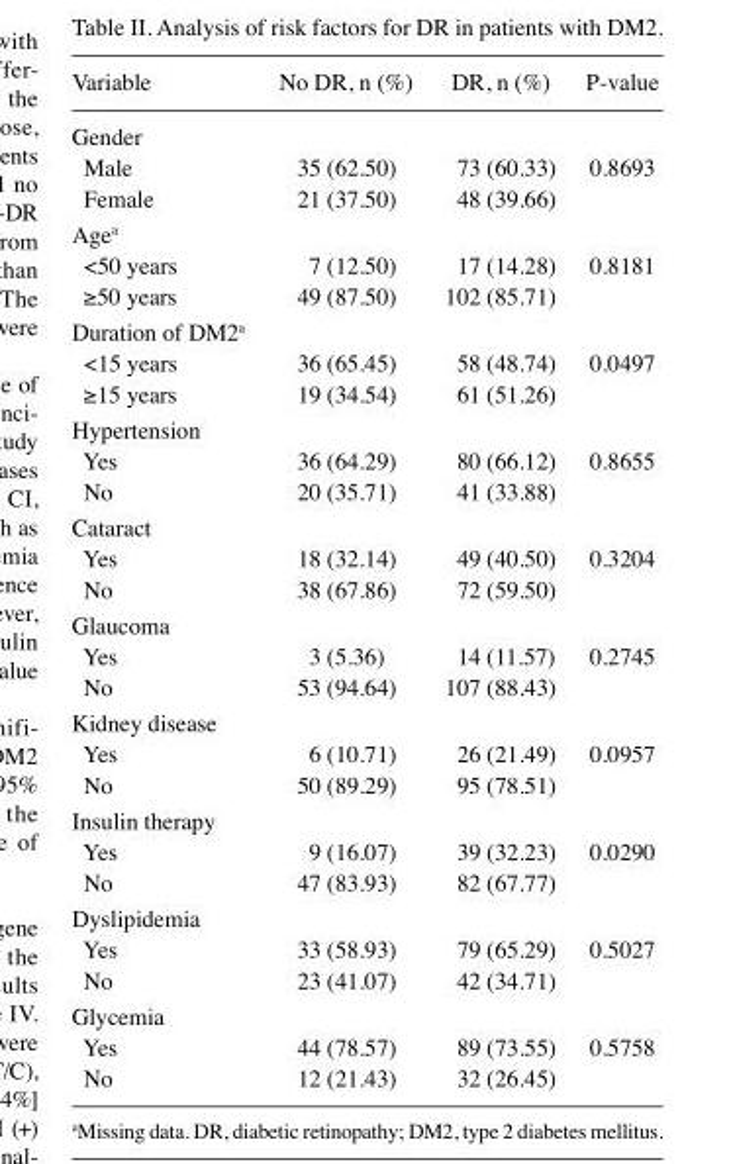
<table><thead><tr><td>Variable</td><td>No DR, n (%)</td><td>DR, n (%)</td><td>P-value</td></tr></thead><tbody><tr><td colspan="4">Gender</td></tr><tr><td>Male</td><td>35 (62.50)</td><td>73 (60.33)</td><td>0.8693</td></tr><tr><td>Female</td><td>21 (37.50)</td><td>48 (39.66)</td><td></td></tr><tr><td colspan="4">Age<sup>a</sup></td></tr><tr><td>&lt;50 years</td><td>7 (12.50)</td><td>17 (14.28)</td><td>0.8181</td></tr><tr><td>≥50 years</td><td>49 (87.50)</td><td>102 (85.71)</td><td></td></tr><tr><td colspan="4">Duration of DM2<sup>a</sup></td></tr><tr><td>&lt;15 years</td><td>36 (65.45)</td><td>58 (48.74)</td><td>0.0497</td></tr><tr><td>≥15 years</td><td>19 (34.54)</td><td>61 (51.26)</td><td></td></tr><tr><td colspan="4">Hypertension</td></tr><tr><td>Yes</td><td>36 (64.29)</td><td>80 (66.12)</td><td>0.8655</td></tr><tr><td>No</td><td>20 (35.71)</td><td>41 (33.88)</td><td></td></tr><tr><td colspan="4">Cataract</td></tr><tr><td>Yes</td><td>18 (32.14)</td><td>49 (40.50)</td><td>0.3204</td></tr><tr><td>No</td><td>38 (67.86)</td><td>72 (59.50)</td><td></td></tr><tr><td colspan="4">Glaucoma</td></tr><tr><td>Yes</td><td>3 (5.36)</td><td>14 (11.57)</td><td>0.2745</td></tr><tr><td>No</td><td>53 (94.64)</td><td>107 (88.43)</td><td></td></tr><tr><td colspan="4">Kidney disease</td></tr><tr><td>Yes</td><td>6 (10.71)</td><td>26 (21.49)</td><td>0.0957</td></tr><tr><td>No</td><td>50 (89.29)</td><td>95 (78.51)</td><td></td></tr><tr><td colspan="4">Insulin therapy</td></tr><tr><td>Yes</td><td>9 (16.07)</td><td>39 (32.23)</td><td>0.0290</td></tr><tr><td>No</td><td>47 (83.93)</td><td>82 (67.77)</td><td></td></tr><tr><td colspan="4">Dyslipidemia</td></tr><tr><td>Yes</td><td>33 (58.93)</td><td>79 (65.29)</td><td>0.5027</td></tr><tr><td>No</td><td>23 (41.07)</td><td>42 (34.71)</td><td></td></tr><tr><td colspan="4">Glycemia</td></tr><tr><td>Yes</td><td>44 (78.57)</td><td>89 (73.55)</td><td>0.5758</td></tr><tr><td>No</td><td>12 (21.43)</td><td>32 (26.45)</td><td></td></tr></tbody></table>